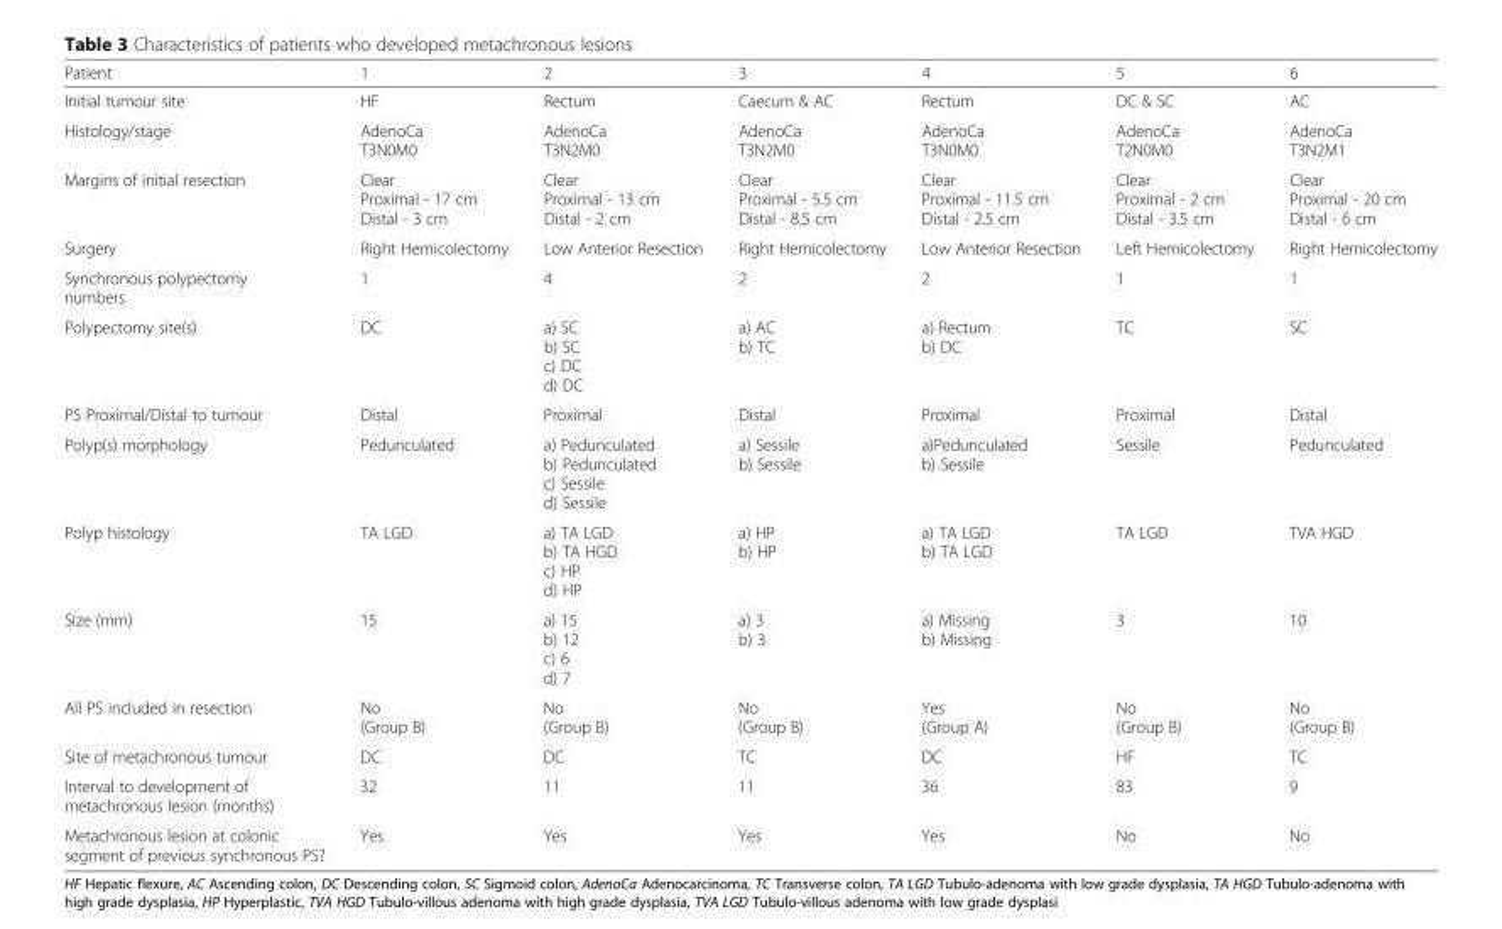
<table><thead><tr><td>Patient</td><td>1</td><td>2</td><td>3</td><td>4</td><td>5</td><td>6</td></tr></thead><tbody><tr><td>Initial tumour site</td><td>HF</td><td>Rectum</td><td>Caecum &amp; AC</td><td>Rectum</td><td>DC &amp; SC</td><td>AC</td></tr><tr><td>Histology/stage</td><td>AdenoCa T3N0M0</td><td>AdenoCa T3N2M0</td><td>AdenoCa T3N2M0</td><td>AdenoCa T3N0M0</td><td>AdenoCa T2N0M0</td><td>AdenoCa T3N2M1</td></tr><tr><td>Margins of initial resection</td><td>Clear Proximal - 17 cm Distal - 3 cm</td><td>Clear Proximal - 13 cm Distal - 2 cm</td><td>Clear Proximal - 5.5 cm Distal - 8.5 cm</td><td>Clear Proximal - 11.5 cm Distal - 2.5 cm</td><td>Clear Proximal - 2 cm Distal - 3.5 cm</td><td>Clear Proximal - 20 cm Distal - 6 cm</td></tr><tr><td>Surgery</td><td>Right Hemicolectomy</td><td>Low Anterior Resection</td><td>Right Hemicolectomy</td><td>Low Anterior Resection</td><td>Left Hemicolectomy</td><td>Right Hemicolectomy</td></tr><tr><td>Synchronous polypectomy numbers</td><td>1</td><td>4</td><td>2</td><td>2</td><td>1</td><td>1</td></tr><tr><td>Polypectomy site(s)</td><td>DC</td><td>a) SC b) SC c) DC d) DC</td><td>a) AC b) TC</td><td>a) Rectum b) DC</td><td>TC</td><td>SC</td></tr><tr><td>PS Proximal/Distal to tumour</td><td>Distal</td><td>Proximal</td><td>Distal</td><td>Proximal</td><td>Proximal</td><td>Distal</td></tr><tr><td>Polyp(s) morphology</td><td>Pedunculated</td><td>a) Pedunculated b) Pedunculated c) Sessile d) Sessile</td><td>a) Sessile b) Sessile</td><td>a)Pedunculated b) Sessile</td><td>Sessile</td><td>Pedunculated</td></tr><tr><td>Polyp histology</td><td>TA LGD</td><td>a) TA LGD b) TA HGD c) HP d) HP</td><td>a) HP b) HP</td><td>a) TA LGD b) TA LGD</td><td>TA LGD</td><td>TVA HGD</td></tr><tr><td>Size (mm)</td><td>15</td><td>a) 15 b) 12 c) 6 d) 7</td><td>a) 3 b) 3</td><td>a) Missing b) Missing</td><td>3</td><td>10</td></tr><tr><td>All PS included in resection</td><td>No (Group B)</td><td>No (Group B)</td><td>No (Group B)</td><td>Yes (Group A)</td><td>No (Group B)</td><td>No (Group B)</td></tr><tr><td>Site of metachronous tumour</td><td>DC</td><td>DC</td><td>TC</td><td>DC</td><td>HF</td><td>TC</td></tr><tr><td>Interval to development of metachronous lesion (months)</td><td>32</td><td>11</td><td>11</td><td>36</td><td>83</td><td>9</td></tr><tr><td>Metachronous lesion at colonic segment of previous synchronous PS?</td><td>Yes</td><td>Yes</td><td>Yes</td><td>Yes</td><td>No</td><td>No</td></tr></tbody></table>